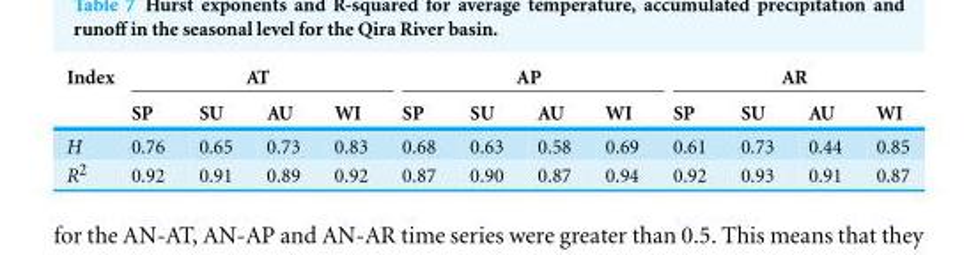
<table><thead><tr><td rowspan="2">Index</td><td colspan="4">AT</td><td colspan="4">AP</td><td colspan="4">AR</td></tr><tr><td>SP</td><td>SU</td><td>AU</td><td>WI</td><td>SP</td><td>SU</td><td>AU</td><td>WI</td><td>SP</td><td>SU</td><td>AU</td><td>WI</td></tr></thead><tbody><tr><td>H</td><td>0.76</td><td>0.65</td><td>0.73</td><td>0.83</td><td>0.68</td><td>0.63</td><td>0.58</td><td>0.69</td><td>0.61</td><td>0.73</td><td>0.44</td><td>0.85</td></tr><tr><td>R<sup>2</sup></td><td>0.92</td><td>0.91</td><td>0.89</td><td>0.92</td><td>0.87</td><td>0.90</td><td>0.87</td><td>0.94</td><td>0.92</td><td>0.93</td><td>0.91</td><td>0.87</td></tr></tbody></table>